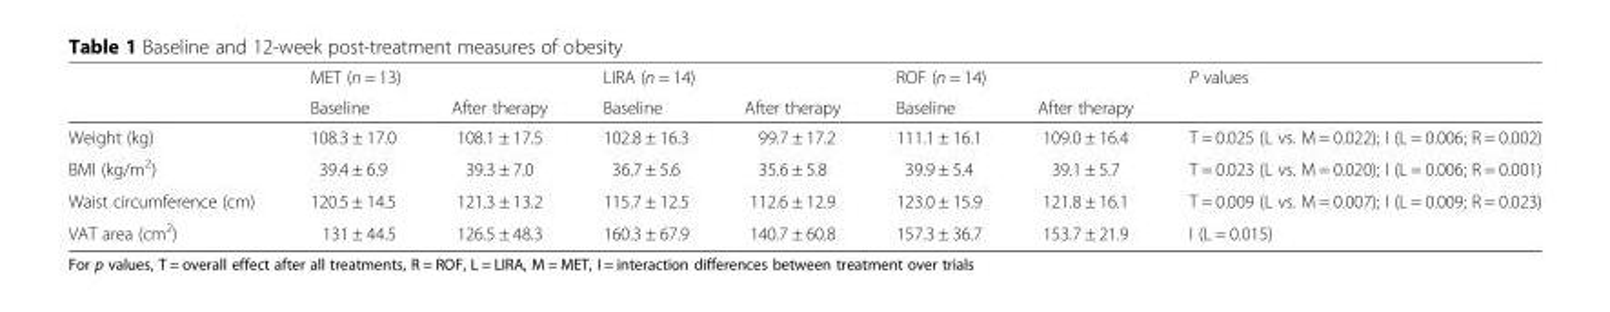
<table><thead><tr><td rowspan="2"></td><td colspan="2">MET (n = 13)</td><td colspan="2">LIRA (n = 14)</td><td colspan="2">ROF (n = 14)</td><td rowspan="2">P values</td></tr><tr><td>Baseline</td><td>After therapy</td><td>Baseline</td><td>After therapy</td><td>Baseline</td><td>After therapy</td></tr></thead><tbody><tr><td>Weight (kg)</td><td>108.3 ± 17.0</td><td>108.1 ± 17.5</td><td>102.8 ± 16.3</td><td>99.7 ± 17.2</td><td>111.1 ± 16.1</td><td>109.0 ± 16.4</td><td>T = 0.025 (L vs. M = 0.022); I (L = 0.006; R = 0.002)</td></tr><tr><td>BMI (kg/m<sup>2</sup>)</td><td>39.4 ± 6.9</td><td>39.3 ± 7.0</td><td>36.7 ± 5.6</td><td>35.6 ± 5.8</td><td>39.9 ± 5.4</td><td>39.1 ± 5.7</td><td>T = 0.023 (L vs. M = 0.020); I (L = 0.006; R = 0.001)</td></tr><tr><td>Waist circumference (cm)</td><td>120.5 ± 14.5</td><td>121.3 ± 13.2</td><td>115.7 ± 12.5</td><td>112.6 ± 12.9</td><td>123.0 ± 15.9</td><td>121.8 ± 16.1</td><td>T = 0.009 (L vs. M = 0.007); I (L = 0.009; R = 0.023)</td></tr><tr><td>VAT area (cm<sup>2</sup>)</td><td>131 ± 44.5</td><td>126.5 ± 48.3</td><td>160.3 ± 67.9</td><td>140.7 ± 60.8</td><td>157.3 ± 36.7</td><td>153.7 ± 21.9</td><td>I (L = 0.015)</td></tr></tbody></table>